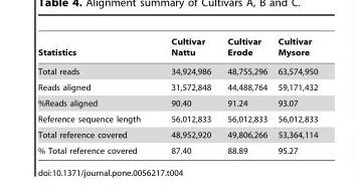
<table><thead><tr><td>Statistics</td><td>Cultivar Nattu</td><td>Cultivar Erode</td><td>Cultivar Mysore</td></tr></thead><tbody><tr><td>Total reads</td><td>34,924,986</td><td>48,755,296</td><td>63,574,950</td></tr><tr><td>Reads aligned</td><td>31,572,848</td><td>44,488,764</td><td>59,171,432</td></tr><tr><td>%Reads aligned</td><td>90.40</td><td>91.24</td><td>93.07</td></tr><tr><td>Reference sequence length</td><td>56,012,833</td><td>56,012,833</td><td>56,012,833</td></tr><tr><td>Total reference covered</td><td>48,952,920</td><td>49,806,266</td><td>53,364,114</td></tr><tr><td>% Total reference covered</td><td>87.40</td><td>88.89</td><td>95.27</td></tr></tbody></table>